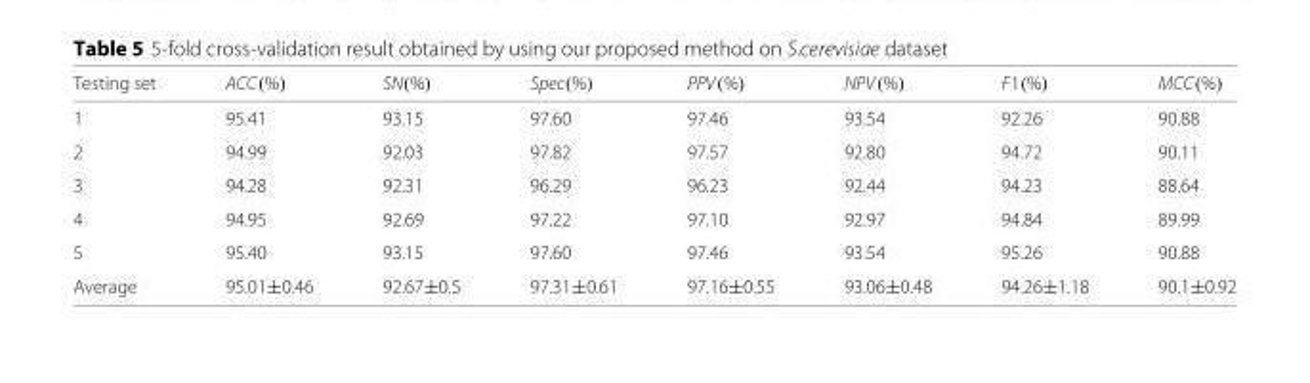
<table><thead><tr><td>Testing set</td><td>ACC(%)</td><td>SN(%)</td><td>Spec(%)</td><td>PPV(%)</td><td>NPV(%)</td><td>F1(%)</td><td>MCC(%)</td></tr></thead><tbody><tr><td>1</td><td>95.41</td><td>93.15</td><td>97.60</td><td>97.46</td><td>93.54</td><td>92.26</td><td>90.88</td></tr><tr><td>2</td><td>94.99</td><td>92.03</td><td>97.82</td><td>97.57</td><td>92.80</td><td>94.72</td><td>90.11</td></tr><tr><td>3</td><td>94.28</td><td>92.31</td><td>96.29</td><td>96.23</td><td>92.44</td><td>94.23</td><td>88.64</td></tr><tr><td>4</td><td>94.95</td><td>92.69</td><td>97.22</td><td>97.10</td><td>92.97</td><td>94.84</td><td>89.99</td></tr><tr><td>5</td><td>95.40</td><td>93.15</td><td>97.60</td><td>97.46</td><td>93.54</td><td>95.26</td><td>90.88</td></tr><tr><td>Average</td><td>95.01±0.46</td><td>92.67±0.5</td><td>97.31±0.61</td><td>97.16±0.55</td><td>93.06±0.48</td><td>94.26±1.18</td><td>90.1±0.92</td></tr></tbody></table>